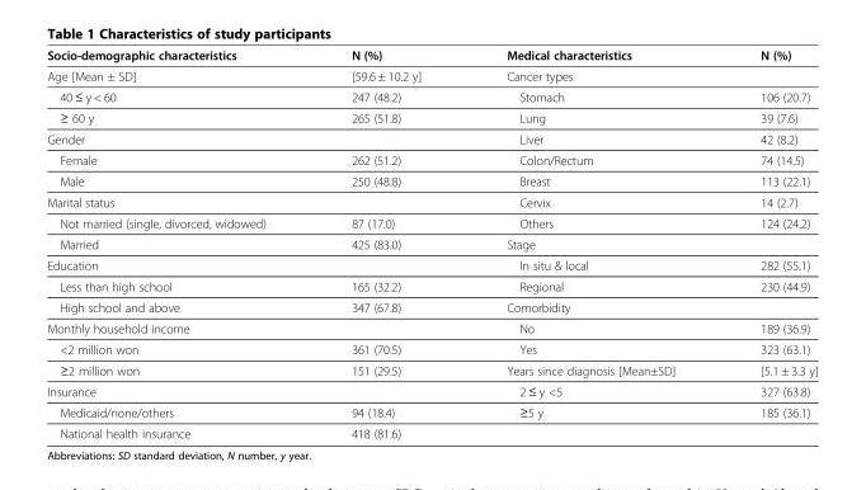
<table><thead><tr><td>Socio-demographic characteristics</td><td>N (%)</td><td>Medical characteristics</td><td>N (%)</td></tr></thead><tbody><tr><td>Age [Mean ± SD]</td><td>[59.6 ± 10.2 y]</td><td>Cancer types</td><td></td></tr><tr><td>40 ≤ y &lt; 60</td><td>247 (48.2)</td><td>Stomach</td><td>106 (20.7)</td></tr><tr><td>≥ 60 y</td><td>265 (51.8)</td><td>Lung</td><td>39 (7.6)</td></tr><tr><td>Gender</td><td></td><td>Liver</td><td>42 (8.2)</td></tr><tr><td>Female</td><td>262 (51.2)</td><td>Colon/Rectum</td><td>74 (14.5)</td></tr><tr><td>Male</td><td>250 (48.8)</td><td>Breast</td><td>113 (22.1)</td></tr><tr><td>Marital status</td><td></td><td>Cervix</td><td>14 (2.7)</td></tr><tr><td>Not married (single, divorced, widowed)</td><td>87 (17.0)</td><td>Others</td><td>124 (24.2)</td></tr><tr><td>Married</td><td>425 (83.0)</td><td>Stage</td><td></td></tr><tr><td>Education</td><td></td><td>In situ &amp; local</td><td>282 (55.1)</td></tr><tr><td>Less than high school</td><td>165 (32.2)</td><td>Regional</td><td>230 (44.9)</td></tr><tr><td>High school and above</td><td>347 (67.8)</td><td>Comorbidity</td><td></td></tr><tr><td>Monthly household income</td><td></td><td>No</td><td>189 (36.9)</td></tr><tr><td>&lt;2 million won</td><td>361 (70.5)</td><td>Yes</td><td>323 (63.1)</td></tr><tr><td>≥2 million won</td><td>151 (29.5)</td><td>Years since diagnosis [Mean±SD]</td><td>[5.1 ± 3.3 y]</td></tr><tr><td>Insurance</td><td></td><td>2 ≤ y &lt;5</td><td>327 (63.8)</td></tr><tr><td>Medicaid/none/others</td><td>94 (18.4)</td><td>≥5 y</td><td>185 (36.1)</td></tr><tr><td>National health insurance</td><td>418 (81.6)</td><td></td><td></td></tr></tbody></table>